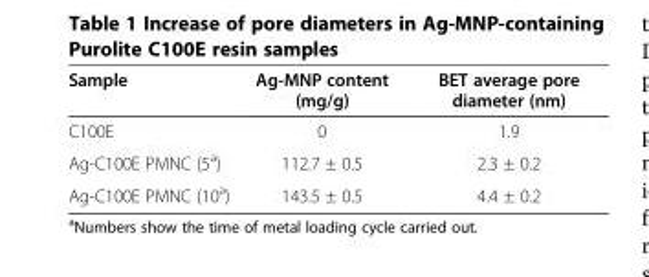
<table><thead><tr><td>Sample</td><td>Ag-MNP content (mg/g)</td><td>BET average pore diameter (nm)</td></tr></thead><tbody><tr><td>C100E</td><td>0</td><td>1.9</td></tr><tr><td>Ag-C100E PMNC (5<sup>a</sup>)</td><td>112.7 ± 0.5</td><td>2.3 ± 0.2</td></tr><tr><td>Ag-C100E PMNC (10<sup>a</sup>)</td><td>143.5 ± 0.5</td><td>4.4 ± 0.2</td></tr></tbody></table>